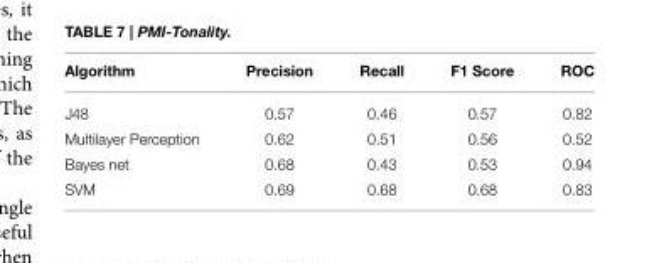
<table><thead><tr><td>Algorithm</td><td>Precision</td><td>Recall</td><td>F1 Score</td><td>ROC</td></tr></thead><tbody><tr><td>J48</td><td>0.57</td><td>0.46</td><td>0.57</td><td>0.82</td></tr><tr><td>Multilayer Perception</td><td>0.62</td><td>0.51</td><td>0.56</td><td>0.52</td></tr><tr><td>Bayes net</td><td>0.68</td><td>0.43</td><td>0.53</td><td>0.94</td></tr><tr><td>SVM</td><td>0.69</td><td>0.68</td><td>0.68</td><td>0.83</td></tr></tbody></table>